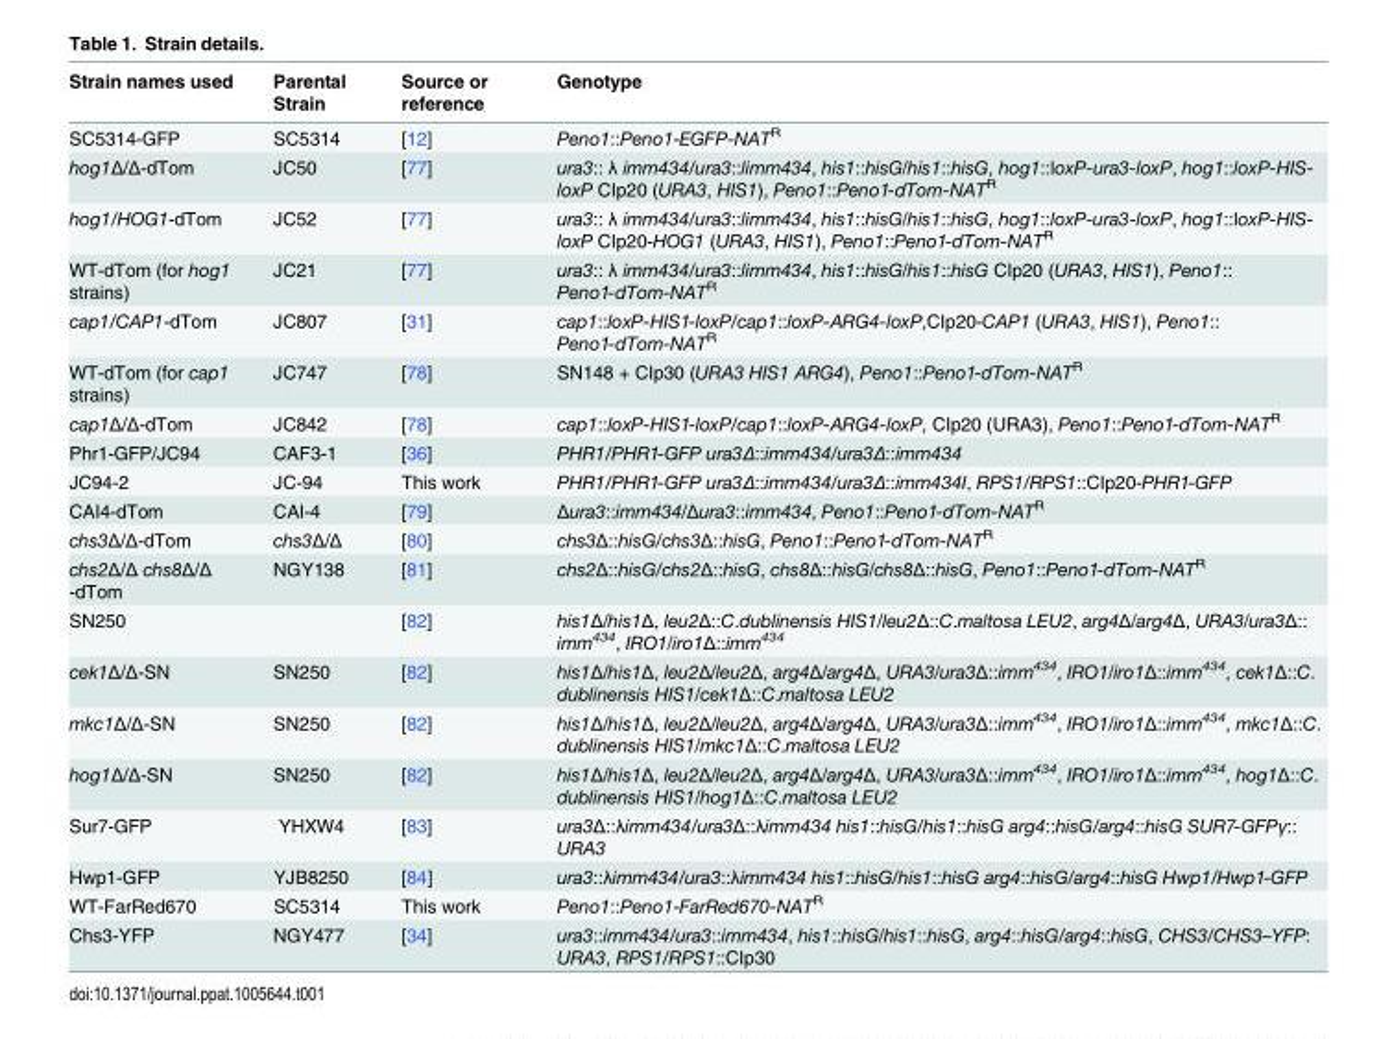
<table><thead><tr><td>Strain names used</td><td>Parental Strain</td><td>Source or reference</td><td>Genotype</td></tr></thead><tbody><tr><td>SC5314-GFP</td><td>SC5314</td><td>[12]</td><td>Peno1::Peno1-EGFP-NAT<sup>R</sup></td></tr><tr><td>hog1Δ/Δ-dTom</td><td>JC50</td><td>[77]</td><td>ura3:: λ imm434/ura3::limm434, his1::hisG/his1::hisG, hog1::loxP-ura3-loxP, hog1::loxP-HIS- loxP CIp20 (URA3, HIS1), Peno1::Peno1-dTom-NAT<sup>R</sup></td></tr><tr><td>hog1/HOG1-dTom</td><td>JC52</td><td>[77]</td><td>ura3:: λ imm434/ura3::limm434, his1::hisG/his1::hisG, hog1::loxP-ura3-loxP, hog1::loxP-HIS- loxP CIp20-HOG1 (URA3, HIS1), Peno1::Peno1-dTom-NAT<sup>R</sup></td></tr><tr><td>WT-dTom (for hog1 strains)</td><td>JC21</td><td>[77]</td><td>ura3:: λ imm434/ura3::limm434, his1::hisG/his1::hisG CIp20 (URA3, HIS1), Peno1:: Peno1-dTom-NAT<sup>R</sup></td></tr><tr><td>cap1/CAP1-dTom</td><td>JC807</td><td>[31]</td><td>cap1::loxP-HIS1-loxP/cap1::loxP-ARG4-loxP,CIp20-CAP1 (URA3, HIS1), Peno1:: Peno1-dTom-NAT<sup>R</sup></td></tr><tr><td>WT-dTom (for cap1 strains)</td><td>JC747</td><td>[78]</td><td>SN148 + CIp30 (URA3 HIS1 ARG4), Peno1::Peno1-dTom-NAT<sup>R</sup></td></tr><tr><td>cap1Δ/Δ-dTom</td><td>JC842</td><td>[78]</td><td>cap1::loxP-HIS1-loxP/cap1::loxP-ARG4-loxP, CIp20 (URA3), Peno1::Peno1-dTom-NAT<sup>R</sup></td></tr><tr><td>Phr1-GFP/JC94</td><td>CAF3-1</td><td>[36]</td><td>PHR1/PHR1-GFP ura3Δ::imm434/ura3Δ::imm434</td></tr><tr><td>JC94-2</td><td>JC-94</td><td>This work</td><td>PHR1/PHR1-GFP ura3Δ::imm434/ura3Δ::imm434I, RPS1/RPS1::CIp20-PHR1-GFP</td></tr><tr><td>CAI4-dTom</td><td>CAI-4</td><td>[79]</td><td>Δura3::imm434/Δura3::imm434, Peno1::Peno1-dTom-NAT<sup>R</sup></td></tr><tr><td>chs3Δ/Δ-dTom</td><td>chs3Δ/Δ</td><td>[80]</td><td>chs3Δ::hisG/chs3Δ::hisG, Peno1::Peno1-dTom-NAT<sup>R</sup></td></tr><tr><td>chs2Δ/Δ chs8Δ/Δ -dTom</td><td>NGY138</td><td>[81]</td><td>chs2Δ::hisG/chs2Δ::hisG, chs8Δ::hisG/chs8Δ::hisG, Peno1::Peno1-dTom-NAT<sup>R</sup></td></tr><tr><td>SN250</td><td></td><td>[82]</td><td>his1Δ/his1Δ, leu2Δ::C.dublinensis HIS1/leu2Δ::C.maltosa LEU2, arg4Δ/arg4Δ, URA3/ura3Δ:: imm434, IRO1/iro1Δ::imm434</td></tr><tr><td>cek1Δ/Δ-SN</td><td>SN250</td><td>[82]</td><td>his1Δ/his1Δ, leu2Δ/leu2Δ, arg4Δ/arg4Δ, URA3/ura3Δ::imm434, IRO1/iro1Δ::imm434, cek1Δ::C. dublinensis HIS1/cek1Δ::C.maltosa LEU2</td></tr><tr><td>mkc1Δ/Δ-SN</td><td>SN250</td><td>[82]</td><td>his1Δ/his1Δ, leu2Δ/leu2Δ, arg4Δ/arg4Δ, URA3/ura3Δ::imm434, IRO1/iro1Δ::imm434, mkc1Δ::C. dublinensis HIS1/mkc1Δ::C.maltosa LEU2</td></tr><tr><td>hog1Δ/Δ-SN</td><td>SN250</td><td>[82]</td><td>his1Δ/his1Δ, leu2Δ/leu2Δ, arg4Δ/arg4Δ, URA3/ura3Δ::imm434, IRO1/iro1Δ::imm434, hog1Δ::C. dublinensis HIS1/hog1Δ::C.maltosa LEU2</td></tr><tr><td>Sur7-GFP</td><td>YHXW4</td><td>[83]</td><td>ura3Δ::λimm434/ura3Δ::λimm434 his1::hisG/his1::hisG arg4::hisG/arg4::hisG SUR7-GFPγ:: URA3</td></tr><tr><td>Hwp1-GFP</td><td>YJB8250</td><td>[84]</td><td>ura3::λimm434/ura3::λimm434 his1::hisG/his1::hisG arg4::hisG/arg4::hisG Hwp1/Hwp1-GFP</td></tr><tr><td>WT-FarRed670</td><td>SC5314</td><td>This work</td><td>Peno1::Peno1-FarRed670-NAT<sup>R</sup></td></tr><tr><td>Chs3-YFP</td><td>NGY477</td><td>[34]</td><td>ura3::imm434/ura3::imm434, his1::hisG/his1::hisG, arg4::hisG/arg4::hisG, CHS3/CHS3–YFP: URA3, RPS1/RPS1::CIp30</td></tr></tbody></table>